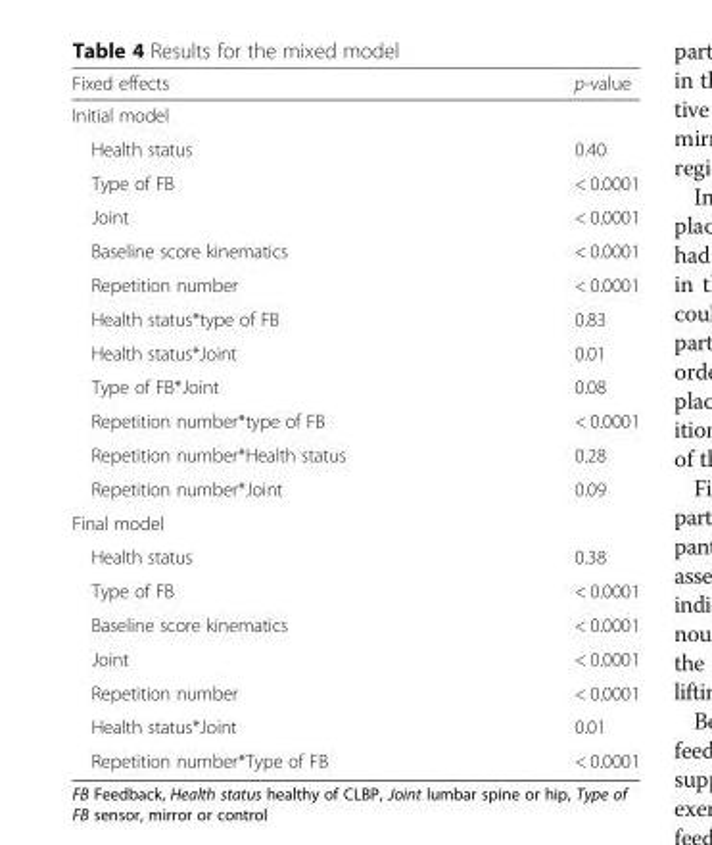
<table><thead><tr><td>Fixed effects</td><td>p-value</td></tr></thead><tbody><tr><td colspan="2">Initial model</td></tr><tr><td>Health status</td><td>0.40</td></tr><tr><td>Type of FB</td><td>&lt; 0.0001</td></tr><tr><td>Joint</td><td>&lt; 0.0001</td></tr><tr><td>Baseline score kinematics</td><td>&lt; 0.0001</td></tr><tr><td>Repetition number</td><td>&lt; 0.0001</td></tr><tr><td>Health status*type of FB</td><td>0.83</td></tr><tr><td>Health status*Joint</td><td>0.01</td></tr><tr><td>Type of FB*Joint</td><td>0.08</td></tr><tr><td>Repetition number*type of FB</td><td>&lt; 0.0001</td></tr><tr><td>Repetition number*Health status</td><td>0.28</td></tr><tr><td>Repetition number*Joint</td><td>0.09</td></tr><tr><td colspan="2">Final model</td></tr><tr><td>Health status</td><td>0.38</td></tr><tr><td>Type of FB</td><td>&lt; 0.0001</td></tr><tr><td>Baseline score kinematics</td><td>&lt; 0.0001</td></tr><tr><td>Joint</td><td>&lt; 0.0001</td></tr><tr><td>Repetition number</td><td>&lt; 0.0001</td></tr><tr><td>Health status*Joint</td><td>0.01</td></tr><tr><td>Repetition number*Type of FB</td><td>&lt; 0.0001</td></tr></tbody></table>